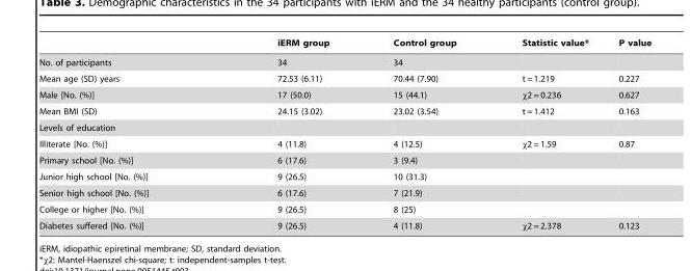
<table><thead><tr><td></td><td>iERM group</td><td>Control group</td><td>Statistic value*</td><td>P value</td></tr></thead><tbody><tr><td>No. of participants</td><td>34</td><td>34</td><td></td><td></td></tr><tr><td>Mean age (SD) years</td><td>72.53 (6.11)</td><td>70.44 (7.90)</td><td>t = 1.219</td><td>0.227</td></tr><tr><td>Male [No. (%)]</td><td>17 (50.0)</td><td>15 (44.1)</td><td>χ2 = 0.236</td><td>0.627</td></tr><tr><td>Mean BMI (SD)</td><td>24.15 (3.02)</td><td>23.02 (3.54)</td><td>t = 1.412</td><td>0.163</td></tr><tr><td colspan="5">Levels of education</td></tr><tr><td>Illiterate [No. (%)]</td><td>4 (11.8)</td><td>4 (12.5)</td><td>χ2 = 1.59</td><td>0.87</td></tr><tr><td>Primary school [No. (%)]</td><td>6 (17.6)</td><td>3 (9.4)</td><td></td><td></td></tr><tr><td>Junior high school [No. (%)]</td><td>9 (26.5)</td><td>10 (31.3)</td><td></td><td></td></tr><tr><td>Senior high school [No. (%)]</td><td>6 (17.6)</td><td>7 (21.9)</td><td></td><td></td></tr><tr><td>College or higher [No. (%)]</td><td>9 (26.5)</td><td>8 (25)</td><td></td><td></td></tr><tr><td>Diabetes suffered [No. (%)]</td><td>9 (26.5)</td><td>4 (11.8)</td><td>χ2 = 2.378</td><td>0.123</td></tr></tbody></table>